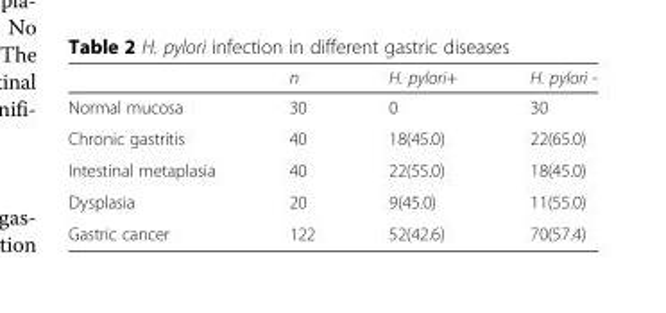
<table><thead><tr><td></td><td>n</td><td>H. pylori+</td><td>H. pylori -</td></tr></thead><tbody><tr><td>Normal mucosa</td><td>30</td><td>0</td><td>30</td></tr><tr><td>Chronic gastritis</td><td>40</td><td>18(45.0)</td><td>22(65.0)</td></tr><tr><td>Intestinal metaplasia</td><td>40</td><td>22(55.0)</td><td>18(45.0)</td></tr><tr><td>Dysplasia</td><td>20</td><td>9(45.0)</td><td>11(55.0)</td></tr><tr><td>Gastric cancer</td><td>122</td><td>52(42.6)</td><td>70(57.4)</td></tr></tbody></table>